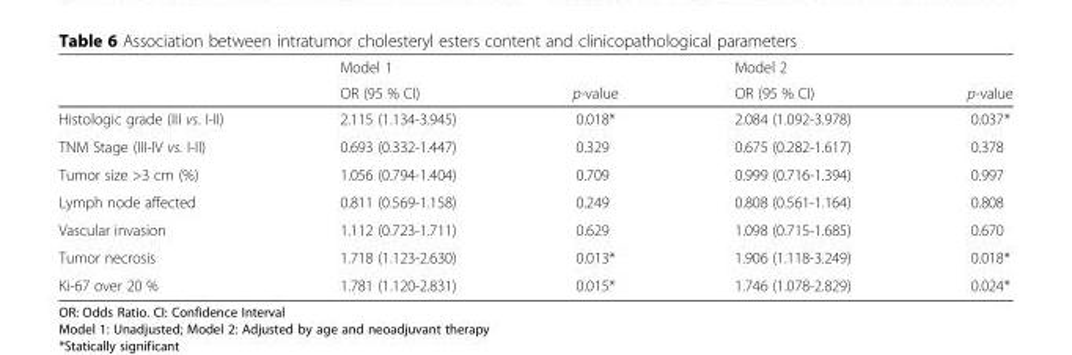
<table><thead><tr><td rowspan="2"></td><td colspan="2">Model 1</td><td colspan="2">Model 2</td></tr><tr><td>OR (95 % CI)</td><td>p-value</td><td>OR (95 % CI)</td><td>p-value</td></tr></thead><tbody><tr><td>Histologic grade (III vs. I-II)</td><td>2.115 (1.134-3.945)</td><td>0.018*</td><td>2.084 (1.092-3.978)</td><td>0.037*</td></tr><tr><td>TNM Stage (III-IV vs. I-II)</td><td>0.693 (0.332-1.447)</td><td>0.329</td><td>0.675 (0.282-1.617)</td><td>0.378</td></tr><tr><td>Tumor size &gt;3 cm (%)</td><td>1.056 (0.794-1.404)</td><td>0.709</td><td>0.999 (0.716-1.394)</td><td>0.997</td></tr><tr><td>Lymph node affected</td><td>0.811 (0.569-1.158)</td><td>0.249</td><td>0.808 (0.561-1.164)</td><td>0.808</td></tr><tr><td>Vascular invasion</td><td>1.112 (0.723-1.711)</td><td>0.629</td><td>1.098 (0.715-1.685)</td><td>0.670</td></tr><tr><td>Tumor necrosis</td><td>1.718 (1.123-2.630)</td><td>0.013*</td><td>1.906 (1.118-3.249)</td><td>0.018*</td></tr><tr><td>Ki-67 over 20 %</td><td>1.781 (1.120-2.831)</td><td>0.015*</td><td>1.746 (1.078-2.829)</td><td>0.024*</td></tr></tbody></table>